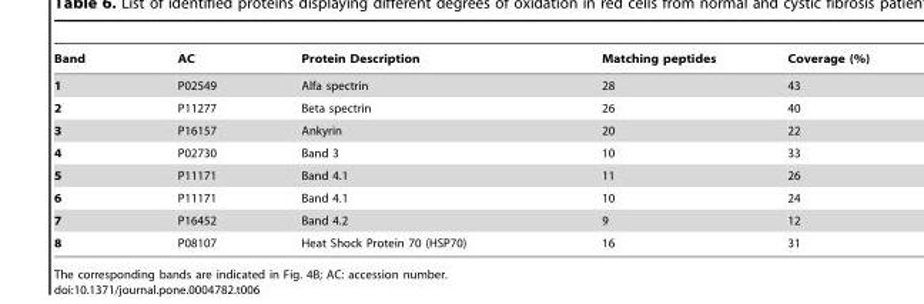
<table><thead><tr><td>Band</td><td>AC</td><td>Protein Description</td><td>Matching peptides</td><td>Coverage (%)</td></tr></thead><tbody><tr><td>1</td><td>P02549</td><td>Alfa spectrin</td><td>28</td><td>43</td></tr><tr><td>2</td><td>P11277</td><td>Beta spectrin</td><td>26</td><td>40</td></tr><tr><td>3</td><td>P16157</td><td>Ankyrin</td><td>20</td><td>22</td></tr><tr><td>4</td><td>P02730</td><td>Band 3</td><td>10</td><td>33</td></tr><tr><td>5</td><td>P11171</td><td>Band 4.1</td><td>11</td><td>26</td></tr><tr><td>6</td><td>P11171</td><td>Band 4.1</td><td>10</td><td>24</td></tr><tr><td>7</td><td>P16452</td><td>Band 4.2</td><td>9</td><td>12</td></tr><tr><td>8</td><td>P08107</td><td>Heat Shock Protein 70 (HSP70)</td><td>16</td><td>31</td></tr></tbody></table>